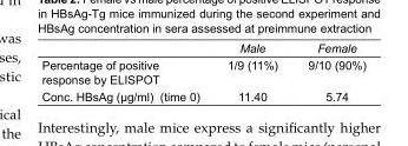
<table><thead><tr><td></td><td>Male</td><td>Female</td></tr></thead><tbody><tr><td>Percentage of positive response by ELISPOT</td><td>1/9 (11%)</td><td>9/10 (90%)</td></tr><tr><td>Conc. HBsAg (µg/ml) (time 0)</td><td>11.40</td><td>5.74</td></tr></tbody></table>